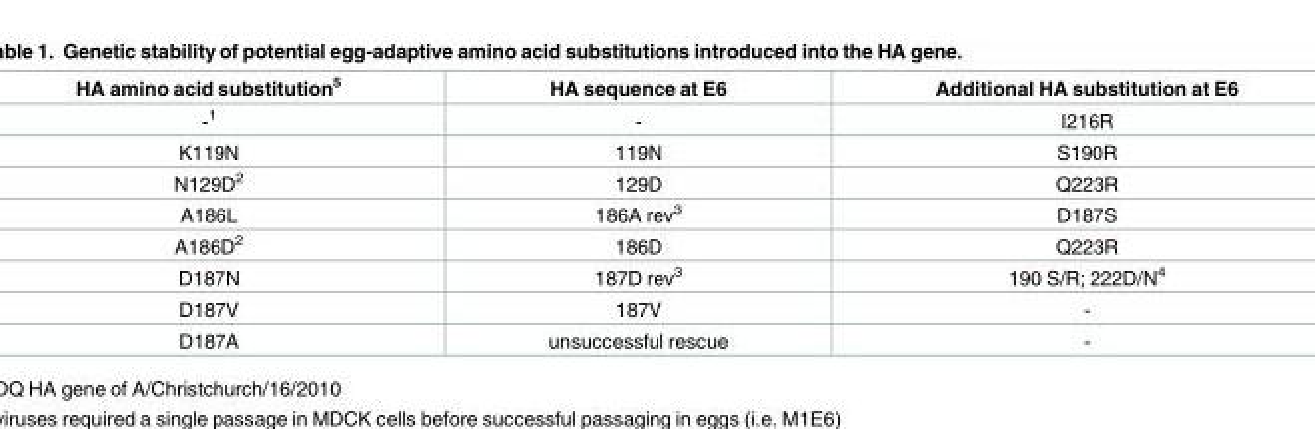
<table><thead><tr><td>HA amino acid substitution<sup>5</sup></td><td>HA sequence at E6</td><td>Additional HA substitution at E6</td></tr></thead><tbody><tr><td>-<sup>1</sup></td><td>-</td><td>I216R</td></tr><tr><td>K119N</td><td>119N</td><td>S190R</td></tr><tr><td>N129D<sup>2</sup></td><td>129D</td><td>Q223R</td></tr><tr><td>A186L</td><td>186A rev<sup>3</sup></td><td>D187S</td></tr><tr><td>A186D<sup>2</sup></td><td>186D</td><td>Q223R</td></tr><tr><td>D187N</td><td>187D rev<sup>3</sup></td><td>190 S/R; 222D/N<sup>4</sup></td></tr><tr><td>D187V</td><td>187V</td><td>-</td></tr><tr><td>D187A</td><td>unsuccessful rescue</td><td>-</td></tr></tbody></table>